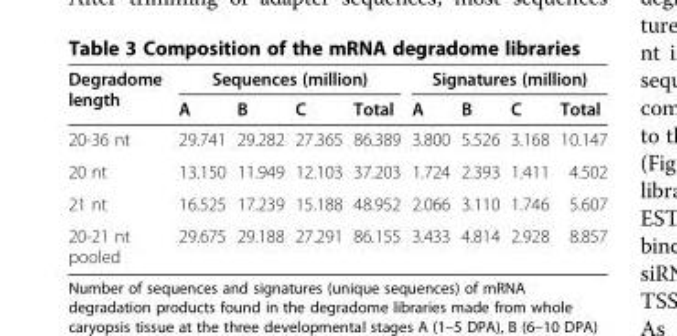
<table><thead><tr><td rowspan="2">Degradome length</td><td colspan="4">Sequences (million)</td><td colspan="4">Signatures (million)</td></tr><tr><td>A</td><td>B</td><td>C</td><td>Total</td><td>A</td><td>B</td><td>C</td><td>Total</td></tr></thead><tbody><tr><td>20-36 nt</td><td>29.741</td><td>29.282</td><td>27.365</td><td>86.389</td><td>3.800</td><td>5.526</td><td>3.168</td><td>10.147</td></tr><tr><td>20 nt</td><td>13.150</td><td>11.949</td><td>12.103</td><td>37.203</td><td>1.724</td><td>2.393</td><td>1.411</td><td>4.502</td></tr><tr><td>21 nt</td><td>16.525</td><td>17.239</td><td>15.188</td><td>48.952</td><td>2.066</td><td>3.110</td><td>1.746</td><td>5.607</td></tr><tr><td>20-21 nt pooled</td><td>29.675</td><td>29.188</td><td>27.291</td><td>86.155</td><td>3.433</td><td>4.814</td><td>2.928</td><td>8.857</td></tr></tbody></table>